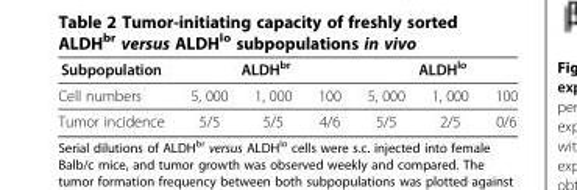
<table><thead><tr><td rowspan="2">Subpopulation Cell numbers</td><td colspan="3">ALDH<sup>br</sup></td><td colspan="3">ALDH<sup>lo</sup></td></tr><tr><td>5, 000</td><td>1, 000</td><td>100</td><td>5, 000</td><td>1, 000</td><td>100</td></tr></thead><tbody><tr><td>Tumor incidence</td><td>5/5</td><td>5/5</td><td>4/6</td><td>5/5</td><td>2/5</td><td>0/6</td></tr></tbody></table>